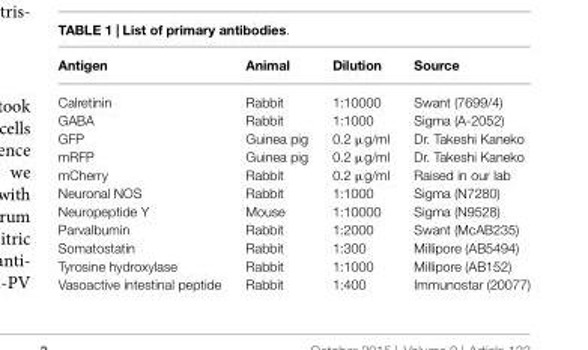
<table><thead><tr><td>Antigen</td><td>Animal</td><td>Dilution</td><td>Source</td></tr></thead><tbody><tr><td>Calretinin</td><td>Rabbit</td><td>1:10000</td><td>Swant (7699/4)</td></tr><tr><td>GABA</td><td>Rabbit</td><td>1:1000</td><td>Sigma (A-2052)</td></tr><tr><td>GFP</td><td>Guinea pig</td><td>0.2 µg/ml</td><td>Dr. Takeshi Kaneko</td></tr><tr><td>mRFP</td><td>Guinea pig</td><td>0.2 µg/ml</td><td>Dr. Takeshi Kaneko</td></tr><tr><td>mCherry</td><td>Rabbit</td><td>0.2 µg/ml</td><td>Raised in our lab</td></tr><tr><td>Neuronal NOS</td><td>Rabbit</td><td>1:1000</td><td>Sigma (N7280)</td></tr><tr><td>Neuropeptide Y</td><td>Mouse</td><td>1:10000</td><td>Sigma (N9528)</td></tr><tr><td>Parvalbumin</td><td>Rabbit</td><td>1:2000</td><td>Swant (McAB235)</td></tr><tr><td>Somatostatin</td><td>Rabbit</td><td>1:300</td><td>Millipore (AB5494)</td></tr><tr><td>Tyrosine hydroxylase</td><td>Rabbit</td><td>1:1000</td><td>Millipore (AB152)</td></tr><tr><td>Vasoactive intestinal peptide</td><td>Rabbit</td><td>1:400</td><td>Immunostar (20077)</td></tr></tbody></table>